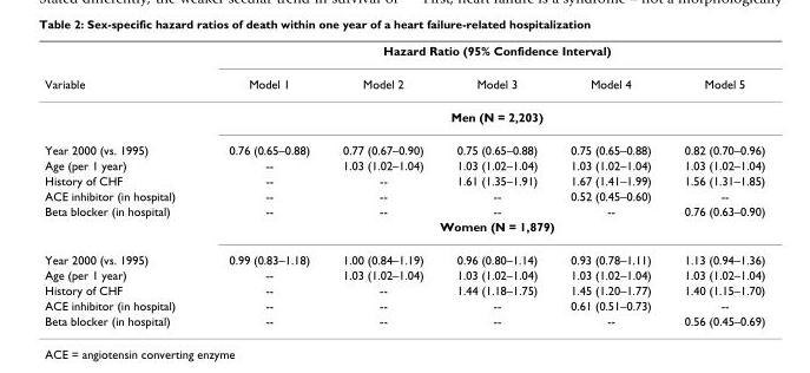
<table><thead><tr><td rowspan="2">Variable</td><td colspan="5">Hazard Ratio (95% Confidence Interval)</td></tr><tr><td>Model 1</td><td>Model 2</td><td>Model 3</td><td>Model 4</td><td>Model 5</td></tr></thead><tbody><tr><td></td><td colspan="5">Men (N = 2,203)</td></tr><tr><td>Year 2000 (vs. 1995)</td><td>0.76 (0.65–0.88)</td><td>0.77 (0.67–0.90)</td><td>0.75 (0.65–0.88)</td><td>0.75 (0.65–0.88)</td><td>0.82 (0.70–0.96)</td></tr><tr><td>Age (per 1 year)</td><td>--</td><td>1.03 (1.02–1.04)</td><td>1.03 (1.02–1.04)</td><td>1.03 (1.02–1.04)</td><td>1.03 (1.02–1.04)</td></tr><tr><td>History of CHF</td><td>--</td><td>--</td><td>1.61 (1.35–1.91)</td><td>1.67 (1.41–1.99)</td><td>1.56 (1.31–1.85)</td></tr><tr><td>ACE inhibitor (in hospital)</td><td>--</td><td>--</td><td>--</td><td>0.52 (0.45–0.60)</td><td>--</td></tr><tr><td rowspan="2">Beta blocker (in hospital)</td><td>--</td><td>--</td><td>--</td><td>--</td><td>0.76 (0.63–0.90)</td></tr><tr><td colspan="5">Women (N = 1,879)</td></tr><tr><td>Year 2000 (vs. 1995)</td><td>0.99 (0.83–1.18)</td><td>1.00 (0.84–1.19)</td><td>0.96 (0.80–1.14)</td><td>0.93 (0.78–1.11)</td><td>1.13 (0.94–1.36)</td></tr><tr><td>Age (per 1 year)</td><td>--</td><td>1.03 (1.02–1.04)</td><td>1.03 (1.02–1.04)</td><td>1.03 (1.02–1.04)</td><td>1.03 (1.02–1.04)</td></tr><tr><td>History of CHF</td><td>--</td><td>--</td><td>1.44 (1.18–1.75)</td><td>1.45 (1.20–1.77)</td><td>1.40 (1.15–1.70)</td></tr><tr><td>ACE inhibitor (in hospital)</td><td>--</td><td>--</td><td>--</td><td>0.61 (0.51–0.73)</td><td>--</td></tr><tr><td>Beta blocker (in hospital)</td><td>--</td><td>--</td><td>--</td><td>--</td><td>0.56 (0.45–0.69)</td></tr></tbody></table>